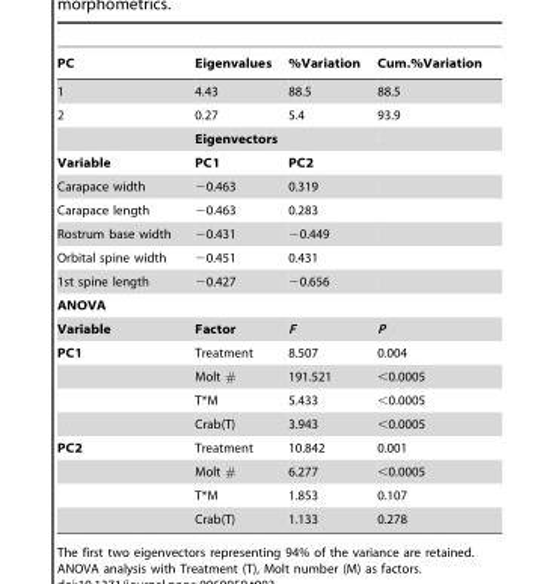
<table><thead><tr><td>PC</td><td>Eigenvalues</td><td>%Variation</td><td>Cum.%Variation</td></tr></thead><tbody><tr><td>1</td><td>4.43</td><td>88.5</td><td>88.5</td></tr><tr><td rowspan="2">2</td><td>0.27</td><td>5.4</td><td>93.9</td></tr><tr><td colspan="2">Eigenvectors</td><td></td></tr><tr><td>Variable</td><td>PC1</td><td>PC2</td><td></td></tr><tr><td>Carapace width</td><td>−0.463</td><td>0.319</td><td></td></tr><tr><td>Carapace length</td><td>−0.463</td><td>0.283</td><td></td></tr><tr><td>Rostrum base width</td><td>−0.431</td><td>−0.449</td><td></td></tr><tr><td>Orbital spine width</td><td>−0.451</td><td>0.431</td><td></td></tr><tr><td>1st spine length</td><td>−0.427</td><td>−0.656</td><td></td></tr><tr><td colspan="4">ANOVA</td></tr><tr><td>Variable</td><td>Factor</td><td>F</td><td>P</td></tr><tr><td rowspan="4">PC1</td><td>Treatment</td><td>8.507</td><td>0.004</td></tr><tr><td>Molt #</td><td>191.521</td><td>&lt;0.0005</td></tr><tr><td>T*M</td><td>5.433</td><td>&lt;0.0005</td></tr><tr><td>Crab(T)</td><td>3.943</td><td>&lt;0.0005</td></tr><tr><td rowspan="4">PC2</td><td>Treatment</td><td>10.842</td><td>0.001</td></tr><tr><td>Molt #</td><td>6.277</td><td>&lt;0.0005</td></tr><tr><td>T*M</td><td>1.853</td><td>0.107</td></tr><tr><td>Crab(T)</td><td>1.133</td><td>0.278</td></tr></tbody></table>